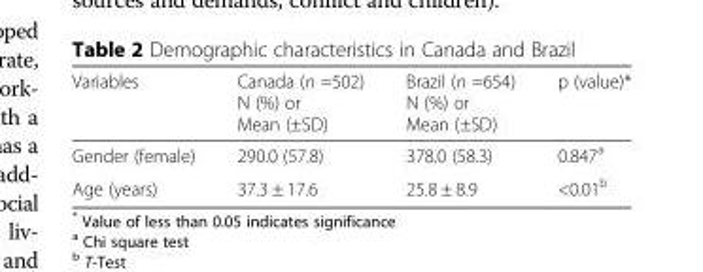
<table><thead><tr><td>Variables</td><td>Canada (n =502) N (%) or Mean (±SD)</td><td>Brazil (n =654) N (%) or Mean (±SD)</td><td>p (value)*</td></tr></thead><tbody><tr><td>Gender (female)</td><td>290.0 (57.8)</td><td>378.0 (58.3)</td><td>0.847<sup>a</sup></td></tr><tr><td>Age (years)</td><td>37.3 ± 17.6</td><td>25.8 ± 8.9</td><td>&lt;0.01<sup>b</sup></td></tr></tbody></table>